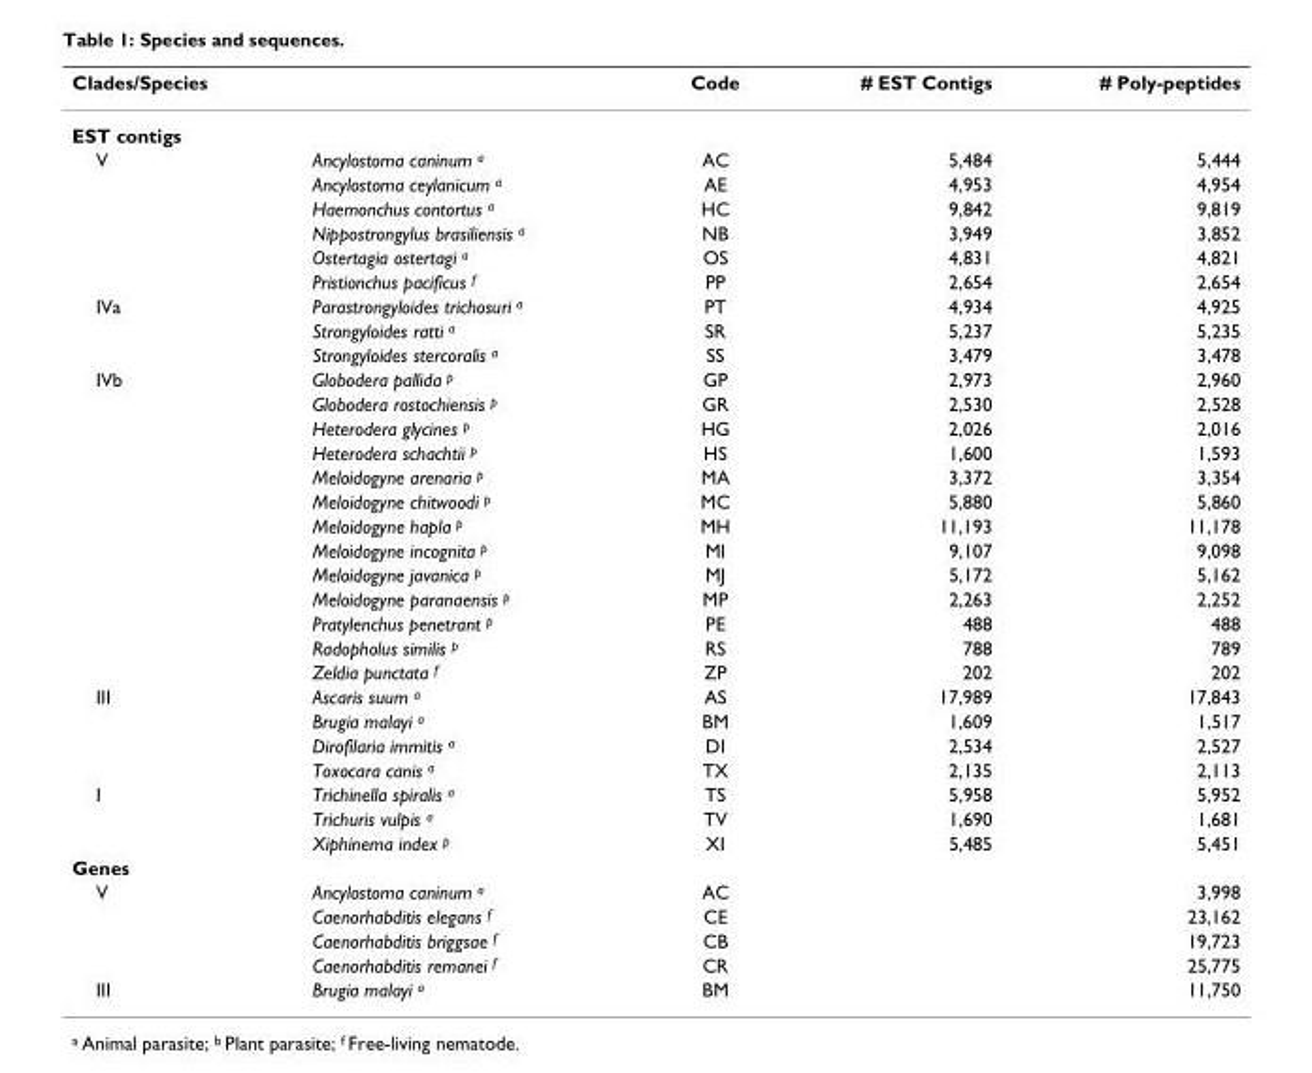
<table><thead><tr><td>Clades/Species</td><td></td><td>Code</td><td># EST Contigs</td><td># Poly-peptides</td></tr></thead><tbody><tr><td colspan="5">EST contigs</td></tr><tr><td rowspan="6">V</td><td>Ancylostoma caninum <sup>a</sup></td><td>AC</td><td>5,484</td><td>5,444</td></tr><tr><td>Ancylostoma ceylanicum <sup>a</sup></td><td>AE</td><td>4,953</td><td>4,954</td></tr><tr><td>Haemonchus contortus <sup>a</sup></td><td>HC</td><td>9,842</td><td>9,819</td></tr><tr><td>Nippostrongylus brasiliensis <sup>a</sup></td><td>NB</td><td>3,949</td><td>3,852</td></tr><tr><td>Ostertagia ostertagi <sup>a</sup></td><td>OS</td><td>4,831</td><td>4,821</td></tr><tr><td>Pristionchus pacificus <sup>f</sup></td><td>PP</td><td>2,654</td><td>2,654</td></tr><tr><td rowspan="3">IVa</td><td>Parastrongyloides trichosuri <sup>a</sup></td><td>PT</td><td>4,934</td><td>4,925</td></tr><tr><td>Strongyloides ratti <sup>a</sup></td><td>SR</td><td>5,237</td><td>5,235</td></tr><tr><td>Strongyloides stercoralis <sup>a</sup></td><td>SS</td><td>3,479</td><td>3,478</td></tr><tr><td rowspan="13">IVb</td><td>Globodera pallida <sup>p</sup></td><td>GP</td><td>2,973</td><td>2,960</td></tr><tr><td>Globodera rostochiensis <sup>p</sup></td><td>GR</td><td>2,530</td><td>2,528</td></tr><tr><td>Heterodera glycines <sup>p</sup></td><td>HG</td><td>2,026</td><td>2,016</td></tr><tr><td>Heterodera schachtii <sup>p</sup></td><td>HS</td><td>1,600</td><td>1,593</td></tr><tr><td>Meloidogyne arenaria <sup>p</sup></td><td>MA</td><td>3,372</td><td>3,354</td></tr><tr><td>Meloidogyne chitwoodi <sup>p</sup></td><td>MC</td><td>5,880</td><td>5,860</td></tr><tr><td>Meloidogyne hapla <sup>p</sup></td><td>MH</td><td>11,193</td><td>11,178</td></tr><tr><td>Meloidogyne incognita <sup>p</sup></td><td>MI</td><td>9,107</td><td>9,098</td></tr><tr><td>Meloidogyne javanica <sup>p</sup></td><td>MJ</td><td>5,172</td><td>5,162</td></tr><tr><td>Meloidogyne paranaensis <sup>p</sup></td><td>MP</td><td>2,263</td><td>2,252</td></tr><tr><td>Pratylenchus penetrant <sup>p</sup></td><td>PE</td><td>488</td><td>488</td></tr><tr><td>Radopholus similis <sup>p</sup></td><td>RS</td><td>788</td><td>789</td></tr><tr><td>Zeldia punctata <sup>f</sup></td><td>ZP</td><td>202</td><td>202</td></tr><tr><td rowspan="4">III</td><td>Ascaris suum <sup>a</sup></td><td>AS</td><td>17,989</td><td>17,843</td></tr><tr><td>Brugia malayi <sup>a</sup></td><td>BM</td><td>1,609</td><td>1,517</td></tr><tr><td>Dirofilaria immitis <sup>a</sup></td><td>DI</td><td>2,534</td><td>2,527</td></tr><tr><td>Toxocara canis <sup>a</sup></td><td>TX</td><td>2,135</td><td>2,113</td></tr><tr><td rowspan="3">I</td><td>Trichinella spiralis <sup>a</sup></td><td>TS</td><td>5,958</td><td>5,952</td></tr><tr><td>Trichuris vulpis <sup>a</sup></td><td>TV</td><td>1,690</td><td>1,681</td></tr><tr><td>Xiphinema index <sup>p</sup></td><td>XI</td><td>5,485</td><td>5,451</td></tr><tr><td colspan="5">Genes</td></tr><tr><td rowspan="4">V</td><td>Ancylostoma caninum <sup>a</sup></td><td>AC</td><td></td><td>3,998</td></tr><tr><td>Caenorhabditis elegans <sup>f</sup></td><td>CE</td><td></td><td>23,162</td></tr><tr><td>Caenorhabditis briggsae <sup>f</sup></td><td>CB</td><td></td><td>19,723</td></tr><tr><td>Caenorhabditis remanei <sup>f</sup></td><td>CR</td><td></td><td>25,775</td></tr><tr><td>III</td><td>Brugia malayi <sup>a</sup></td><td>BM</td><td></td><td>11,750</td></tr></tbody></table>